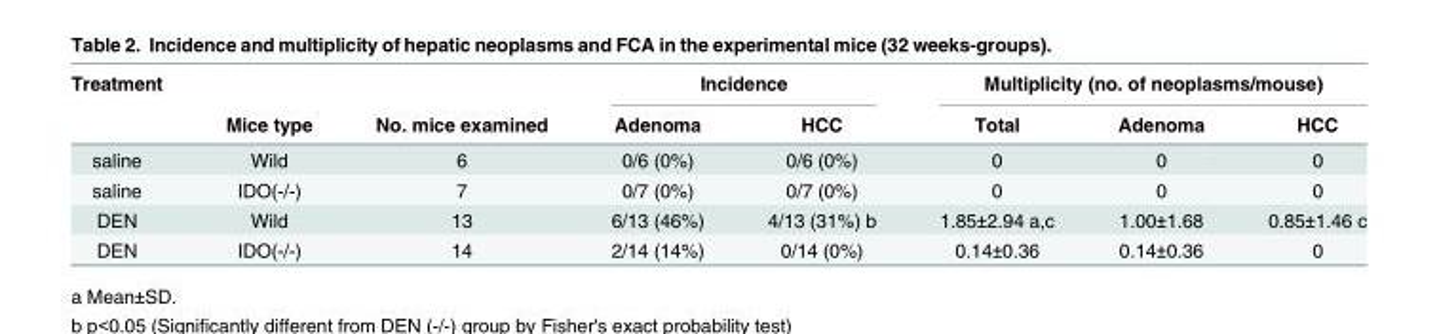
<table><thead><tr><td rowspan="2">Treatment</td><td rowspan="2">Mice type</td><td rowspan="2">No. mice examined</td><td colspan="2">Incidence</td><td colspan="3">Multiplicity (no. of neoplasms/mouse)</td></tr><tr><td>Adenoma</td><td>HCC</td><td>Total</td><td>Adenoma</td><td>HCC</td></tr></thead><tbody><tr><td>saline</td><td>Wild</td><td>6</td><td>0/6 (0%)</td><td>0/6 (0%)</td><td>0</td><td>0</td><td>0</td></tr><tr><td>saline</td><td>IDO(-/-)</td><td>7</td><td>0/7 (0%)</td><td>0/7 (0%)</td><td>0</td><td>0</td><td>0</td></tr><tr><td>DEN</td><td>Wild</td><td>13</td><td>6/13 (46%)</td><td>4/13 (31%) b</td><td>1.85±2.94 a,c</td><td>1.00±1.68</td><td>0.85±1.46 c</td></tr><tr><td>DEN</td><td>IDO(-/-)</td><td>14</td><td>2/14 (14%)</td><td>0/14 (0%)</td><td>0.14±0.36</td><td>0.14±0.36</td><td>0</td></tr></tbody></table>